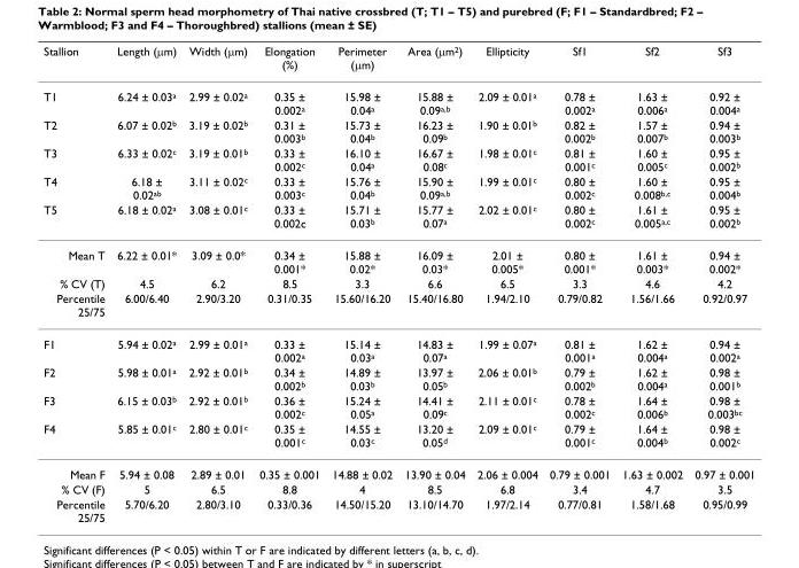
<table><thead><tr><td>Stallion</td><td>Length (μm)</td><td>Width (μm)</td><td>Elongation (%)</td><td>Perimeter (μm)</td><td>Area (μm<sup>2</sup>)</td><td>Ellipticity</td><td>Sf1</td><td>Sf2</td><td>Sf3</td></tr></thead><tbody><tr><td>T1</td><td>6.24 ± 0.03<sup>a</sup></td><td>2.99 ± 0.02<sup>a</sup></td><td>0.35 ± 0.002<sup>a</sup></td><td>15.98 ± 0.04<sup>a</sup></td><td>15.88 ± 0.09<sup>a,b</sup></td><td>2.09 ± 0.01<sup>a</sup></td><td>0.78 ± 0.002<sup>a</sup></td><td>1.63 ± 0.006<sup>a</sup></td><td>0.92 ± 0.004<sup>a</sup></td></tr><tr><td>T2</td><td>6.07 ± 0.02<sup>b</sup></td><td>3.19 ± 0.02<sup>b</sup></td><td>0.31 ± 0.003<sup>b</sup></td><td>15.73 ± 0.04<sup>b</sup></td><td>16.23 ± 0.09<sup>b</sup></td><td>1.90 ± 0.01<sup>b</sup></td><td>0.82 ± 0.002<sup>b</sup></td><td>1.57 ± 0.007<sup>b</sup></td><td>0.94 ± 0.003<sup>b</sup></td></tr><tr><td>T3</td><td>6.33 ± 0.02<sup>c</sup></td><td>3.19 ± 0.01<sup>b</sup></td><td>0.33 ± 0.002<sup>c</sup></td><td>16.10 ± 0.04<sup>a</sup></td><td>16.67 ± 0.08<sup>c</sup></td><td>1.98 ± 0.01<sup>c</sup></td><td>0.81 ± 0.001<sup>c</sup></td><td>1.60 ± 0.005<sup>c</sup></td><td>0.95 ± 0.002<sup>b</sup></td></tr><tr><td>T4</td><td>6.18 ± 0.02<sup>ab</sup></td><td>3.11 ± 0.02<sup>c</sup></td><td>0.33 ± 0.003<sup>c</sup></td><td>15.76 ± 0.04<sup>b</sup></td><td>15.90 ± 0.09<sup>a,b</sup></td><td>1.99 ± 0.01<sup>c</sup></td><td>0.80 ± 0.002<sup>c</sup></td><td>1.60 ± 0.008<sup>b,c</sup></td><td>0.95 ± 0.004<sup>b</sup></td></tr><tr><td>T5</td><td>6.18 ± 0.02<sup>a</sup></td><td>3.08 ± 0.01<sup>c</sup></td><td>0.33 ± 0.002c</td><td>15.71 ± 0.03<sup>b</sup></td><td>15.77 ± 0.07<sup>a</sup></td><td>2.02 ± 0.01<sup>c</sup></td><td>0.80 ± 0.002<sup>c</sup></td><td>1.61 ± 0.005<sup>a,c</sup></td><td>0.95 ± 0.002<sup>b</sup></td></tr><tr><td>Mean T</td><td>6.22 ± 0.01*</td><td>3.09 ± 0.0*</td><td>0.34 ± 0.001*</td><td>15.88 ± 0.02*</td><td>16.09 ± 0.03*</td><td>2.01 ± 0.005*</td><td>0.80 ± 0.001*</td><td>1.61 ± 0.003*</td><td>0.94 ± 0.002*</td></tr><tr><td>% CV (T)</td><td>4.5</td><td>6.2</td><td>8.5</td><td>3.3</td><td>6.6</td><td>6.5</td><td>3.3</td><td>4.6</td><td>4.2</td></tr><tr><td>Percentile 25/75</td><td>6.00/6.40</td><td>2.90/3.20</td><td>0.31/0.35</td><td>15.60/16.20</td><td>15.40/16.80</td><td>1.94/2.10</td><td>0.79/0.82</td><td>1.56/1.66</td><td>0.92/0.97</td></tr><tr><td>F1</td><td>5.94 ± 0.02<sup>a</sup></td><td>2.99 ± 0.01<sup>a</sup></td><td>0.33 ± 0.002<sup>a</sup></td><td>15.14 ± 0.03<sup>a</sup></td><td>14.83 ± 0.07<sup>a</sup></td><td>1.99 ± 0.07<sup>a</sup></td><td>0.81 ± 0.001<sup>a</sup></td><td>1.62 ± 0.004<sup>a</sup></td><td>0.94 ± 0.002<sup>a</sup></td></tr><tr><td>F2</td><td>5.98 ± 0.01<sup>a</sup></td><td>2.92 ± 0.01<sup>b</sup></td><td>0.34 ± 0.002<sup>b</sup></td><td>14.89 ± 0.03<sup>b</sup></td><td>13.97 ± 0.05<sup>b</sup></td><td>2.06 ± 0.01<sup>b</sup></td><td>0.79 ± 0.002<sup>b</sup></td><td>1.62 ± 0.004<sup>a</sup></td><td>0.98 ± 0.001<sup>b</sup></td></tr><tr><td>F3</td><td>6.15 ± 0.03<sup>b</sup></td><td>2.92 ± 0.01<sup>b</sup></td><td>0.36 ± 0.002<sup>c</sup></td><td>15.24 ± 0.05<sup>a</sup></td><td>14.41 ± 0.09<sup>c</sup></td><td>2.11 ± 0.01<sup>c</sup></td><td>0.78 ± 0.002<sup>c</sup></td><td>1.64 ± 0.006<sup>b</sup></td><td>0.98 ± 0.003<sup>bc</sup></td></tr><tr><td>F4</td><td>5.85 ± 0.01<sup>c</sup></td><td>2.80 ± 0.01<sup>c</sup></td><td>0.35 ± 0.001<sup>c</sup></td><td>14.55 ± 0.03<sup>c</sup></td><td>13.20 ± 0.05<sup>d</sup></td><td>2.09 ± 0.01<sup>c</sup></td><td>0.79 ± 0.001<sup>c</sup></td><td>1.64 ± 0.004<sup>b</sup></td><td>0.98 ± 0.002<sup>c</sup></td></tr><tr><td>Mean F</td><td>5.94 ± 0.08</td><td>2.89 ± 0.01</td><td>0.35 ± 0.001</td><td>14.88 ± 0.02</td><td>13.90 ± 0.04</td><td>2.06 ± 0.004</td><td>0.79 ± 0.001</td><td>1.63 ± 0.002</td><td>0.97 ± 0.001</td></tr><tr><td>% CV (F)</td><td>5</td><td>6.5</td><td>8.8</td><td>4</td><td>8.5</td><td>6.8</td><td>3.4</td><td>4.7</td><td>3.5</td></tr><tr><td>Percentile 25/75</td><td>5.70/6.20</td><td>2.80/3.10</td><td>0.33/0.36</td><td>14.50/15.20</td><td>13.10/14.70</td><td>1.97/2.14</td><td>0.77/0.81</td><td>1.58/1.68</td><td>0.95/0.99</td></tr></tbody></table>